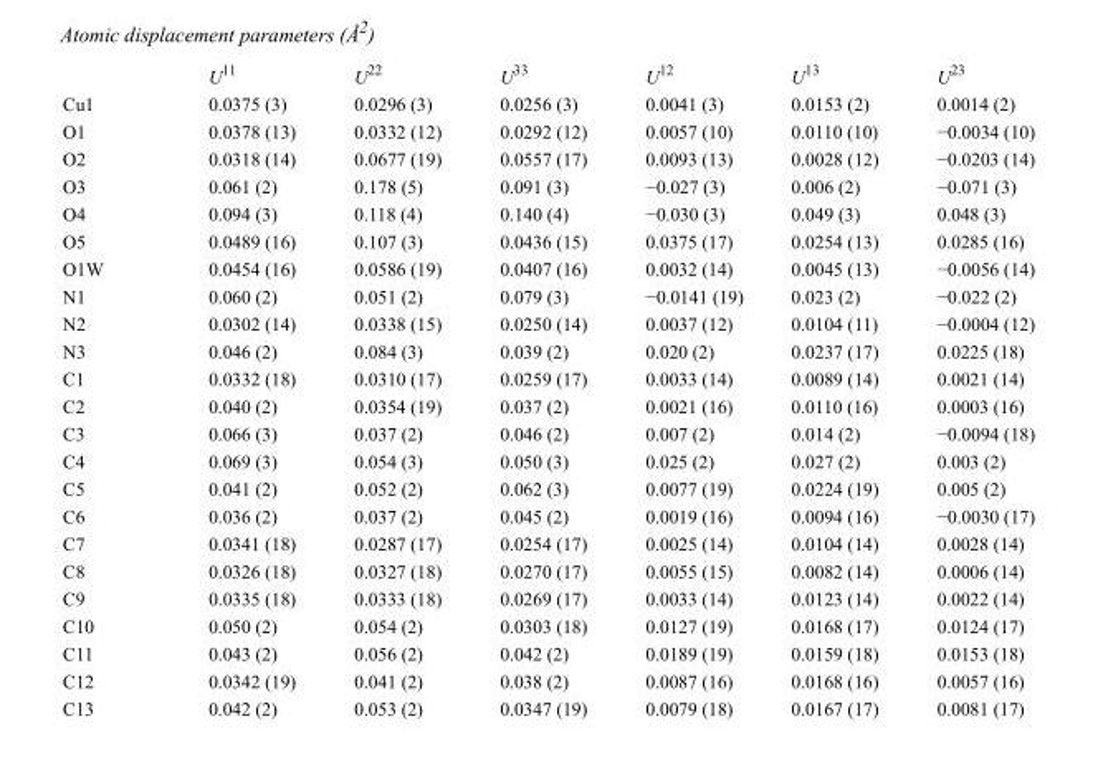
<table><thead><tr><td></td><td>U<sup>11</sup></td><td>U<sup>22</sup></td><td>U<sup>33</sup></td><td>U<sup>12</sup></td><td>U<sup>13</sup></td><td>U<sup>23</sup></td></tr></thead><tbody><tr><td>Cu1</td><td>0.0375 (3)</td><td>0.0296 (3)</td><td>0.0256 (3)</td><td>0.0041 (3)</td><td>0.0153 (2)</td><td>0.0014 (2)</td></tr><tr><td>O1</td><td>0.0378 (13)</td><td>0.0332 (12)</td><td>0.0292 (12)</td><td>0.0057 (10)</td><td>0.0110 (10)</td><td>−0.0034 (10)</td></tr><tr><td>O2</td><td>0.0318 (14)</td><td>0.0677 (19)</td><td>0.0557 (17)</td><td>0.0093 (13)</td><td>0.0028 (12)</td><td>−0.0203 (14)</td></tr><tr><td>O3</td><td>0.061 (2)</td><td>0.178 (5)</td><td>0.091 (3)</td><td>−0.027 (3)</td><td>0.006 (2)</td><td>−0.071 (3)</td></tr><tr><td>O4</td><td>0.094 (3)</td><td>0.118 (4)</td><td>0.140 (4)</td><td>−0.030 (3)</td><td>0.049 (3)</td><td>0.048 (3)</td></tr><tr><td>O5</td><td>0.0489 (16)</td><td>0.107 (3)</td><td>0.0436 (15)</td><td>0.0375 (17)</td><td>0.0254 (13)</td><td>0.0285 (16)</td></tr><tr><td>O1W</td><td>0.0454 (16)</td><td>0.0586 (19)</td><td>0.0407 (16)</td><td>0.0032 (14)</td><td>0.0045 (13)</td><td>−0.0056 (14)</td></tr><tr><td>N1</td><td>0.060 (2)</td><td>0.051 (2)</td><td>0.079 (3)</td><td>−0.0141 (19)</td><td>0.023 (2)</td><td>−0.022 (2)</td></tr><tr><td>N2</td><td>0.0302 (14)</td><td>0.0338 (15)</td><td>0.0250 (14)</td><td>0.0037 (12)</td><td>0.0104 (11)</td><td>−0.0004 (12)</td></tr><tr><td>N3</td><td>0.046 (2)</td><td>0.084 (3)</td><td>0.039 (2)</td><td>0.020 (2)</td><td>0.0237 (17)</td><td>0.0225 (18)</td></tr><tr><td>C1</td><td>0.0332 (18)</td><td>0.0310 (17)</td><td>0.0259 (17)</td><td>0.0033 (14)</td><td>0.0089 (14)</td><td>0.0021 (14)</td></tr><tr><td>C2</td><td>0.040 (2)</td><td>0.0354 (19)</td><td>0.037 (2)</td><td>0.0021 (16)</td><td>0.0110 (16)</td><td>0.0003 (16)</td></tr><tr><td>C3</td><td>0.066 (3)</td><td>0.037 (2)</td><td>0.046 (2)</td><td>0.007 (2)</td><td>0.014 (2)</td><td>−0.0094 (18)</td></tr><tr><td>C4</td><td>0.069 (3)</td><td>0.054 (3)</td><td>0.050 (3)</td><td>0.025 (2)</td><td>0.027 (2)</td><td>0.003 (2)</td></tr><tr><td>C5</td><td>0.041 (2)</td><td>0.052 (2)</td><td>0.062 (3)</td><td>0.0077 (19)</td><td>0.0224 (19)</td><td>0.005 (2)</td></tr><tr><td>C6</td><td>0.036 (2)</td><td>0.037 (2)</td><td>0.045 (2)</td><td>0.0019 (16)</td><td>0.0094 (16)</td><td>−0.0030 (17)</td></tr><tr><td>C7</td><td>0.0341 (18)</td><td>0.0287 (17)</td><td>0.0254 (17)</td><td>0.0025 (14)</td><td>0.0104 (14)</td><td>0.0028 (14)</td></tr><tr><td>C8</td><td>0.0326 (18)</td><td>0.0327 (18)</td><td>0.0270 (17)</td><td>0.0055 (15)</td><td>0.0082 (14)</td><td>0.0006 (14)</td></tr><tr><td>C9</td><td>0.0335 (18)</td><td>0.0333 (18)</td><td>0.0269 (17)</td><td>0.0033 (14)</td><td>0.0123 (14)</td><td>0.0022 (14)</td></tr><tr><td>C10</td><td>0.050 (2)</td><td>0.054 (2)</td><td>0.0303 (18)</td><td>0.0127 (19)</td><td>0.0168 (17)</td><td>0.0124 (17)</td></tr><tr><td>C11</td><td>0.043 (2)</td><td>0.056 (2)</td><td>0.042 (2)</td><td>0.0189 (19)</td><td>0.0159 (18)</td><td>0.0153 (18)</td></tr><tr><td>C12</td><td>0.0342 (19)</td><td>0.041 (2)</td><td>0.038 (2)</td><td>0.0087 (16)</td><td>0.0168 (16)</td><td>0.0057 (16)</td></tr><tr><td>C13</td><td>0.042 (2)</td><td>0.053 (2)</td><td>0.0347 (19)</td><td>0.0079 (18)</td><td>0.0167 (17)</td><td>0.0081 (17)</td></tr></tbody></table>